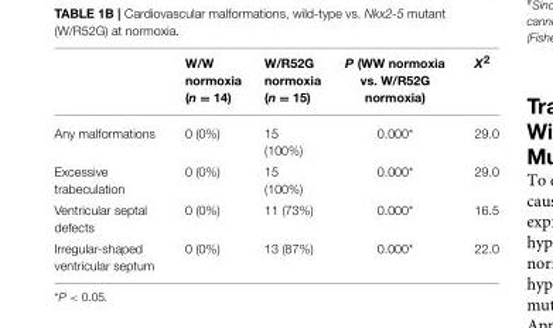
<table><thead><tr><td></td><td>W/W normoxia (n = 14)</td><td>W/R52G normoxia (n = 15)</td><td>P (WW normoxia vs. W/R52G normoxia)</td><td>X<sup>2</sup></td></tr></thead><tbody><tr><td>Any malformations</td><td>0 (0%)</td><td>15 (100%)</td><td>0.000*</td><td>29.0</td></tr><tr><td>Excessive trabeculation</td><td>0 (0%)</td><td>15 (100%)</td><td>0.000*</td><td>29.0</td></tr><tr><td>Ventricular septal defects</td><td>0 (0%)</td><td>11 (73%)</td><td>0.000*</td><td>16.5</td></tr><tr><td>Irregular-shaped ventricular septum</td><td>0 (0%)</td><td>13 (87%)</td><td>0.000*</td><td>22.0</td></tr></tbody></table>